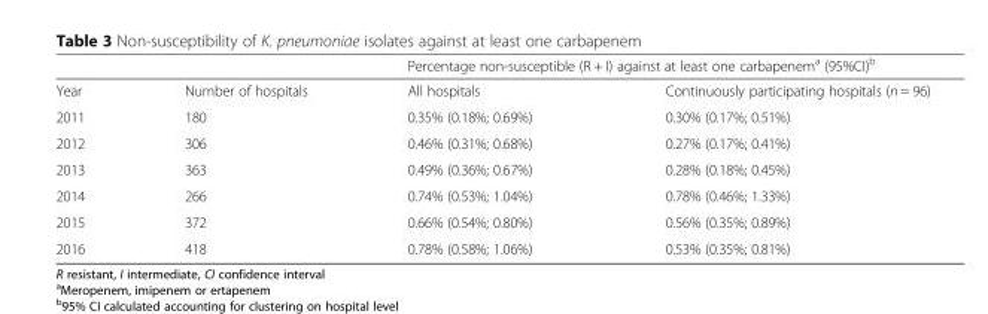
<table><thead><tr><td rowspan="2">Year</td><td rowspan="2">Number of hospitals</td><td colspan="2">Percentage non-susceptible (R + I) against at least one carbapenem<sup>a</sup> (95%CI)<sup>b</sup></td></tr><tr><td>All hospitals</td><td>Continuously participating hospitals (n = 96)</td></tr></thead><tbody><tr><td>2011</td><td>180</td><td>0.35% (0.18%; 0.69%)</td><td>0.30% (0.17%; 0.51%)</td></tr><tr><td>2012</td><td>306</td><td>0.46% (0.31%; 0.68%)</td><td>0.27% (0.17%; 0.41%)</td></tr><tr><td>2013</td><td>363</td><td>0.49% (0.36%; 0.67%)</td><td>0.28% (0.18%; 0.45%)</td></tr><tr><td>2014</td><td>266</td><td>0.74% (0.53%; 1.04%)</td><td>0.78% (0.46%; 1.33%)</td></tr><tr><td>2015</td><td>372</td><td>0.66% (0.54%; 0.80%)</td><td>0.56% (0.35%; 0.89%)</td></tr><tr><td>2016</td><td>418</td><td>0.78% (0.58%; 1.06%)</td><td>0.53% (0.35%; 0.81%)</td></tr></tbody></table>